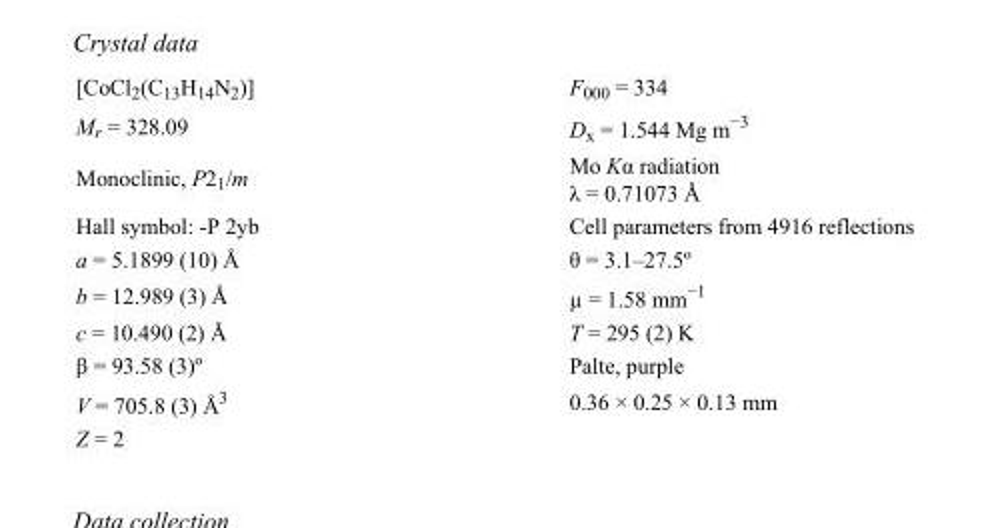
<table><tbody><tr><td>[CoCl<sub>2</sub>(C<sub>13</sub>H<sub>14</sub>N<sub>2</sub>)]</td><td>F<sub>000</sub> = 334</td></tr><tr><td>M<sub>r</sub> = 328.09</td><td>D<sub>x</sub> = 1.544 Mg m<sup>−3</sup></td></tr><tr><td>Monoclinic, P2<sub>1</sub>/m</td><td>Mo Kα radiation λ = 0.71073 Å</td></tr><tr><td>Hall symbol: -P 2yb</td><td>Cell parameters from 4916 reflections</td></tr><tr><td>a = 5.1899 (10) Å</td><td>θ = 3.1–27.5º</td></tr><tr><td>b = 12.989 (3) Å</td><td>µ = 1.58 mm<sup>−1</sup></td></tr><tr><td>c = 10.490 (2) Å</td><td>T = 295 (2) K</td></tr><tr><td>β = 93.58 (3)º</td><td>Palte, purple</td></tr><tr><td>V = 705.8 (3) Å<sup>3</sup></td><td>0.36 × 0.25 × 0.13 mm</td></tr><tr><td>Z = 2</td><td></td></tr></tbody></table>